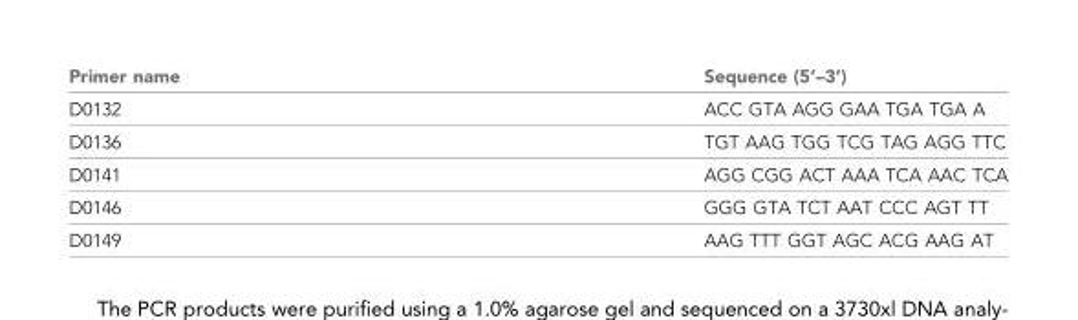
<table><thead><tr><td>Primer name</td><td>Sequence (5’–3’)</td></tr></thead><tbody><tr><td>D0132</td><td>ACC GTA AGG GAA TGA TGA A</td></tr><tr><td>D0136</td><td>TGT AAG TGG TCG TAG AGG TTC</td></tr><tr><td>D0141</td><td>AGG CGG ACT AAA TCA AAC TCA</td></tr><tr><td>D0146</td><td>GGG GTA TCT AAT CCC AGT TT</td></tr><tr><td>D0149</td><td>AAG TTT GGT AGC ACG AAG AT</td></tr></tbody></table>